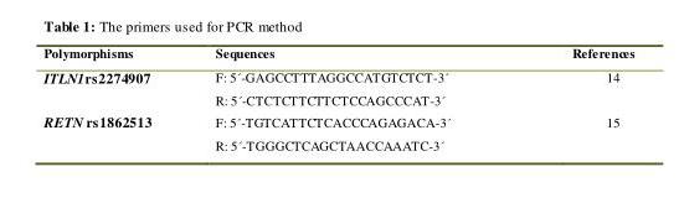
<table><thead><tr><td>Polymorphisms</td><td>Sequences</td><td>References</td></tr></thead><tbody><tr><td>ITLN1rs2274907</td><td>F: 5´-GAGCCTTTAGGCCATGTCTCT-3´ R: 5´-CTCTCTTCTTCTCCAGCCCAT-3´</td><td>14</td></tr><tr><td>RETN rs1862513</td><td>F: 5´-TGTCATTCTCACCCAGAGACA-3´ R: 5´-TGGGCTCAGCTAACCAAATC-3´</td><td>15</td></tr></tbody></table>